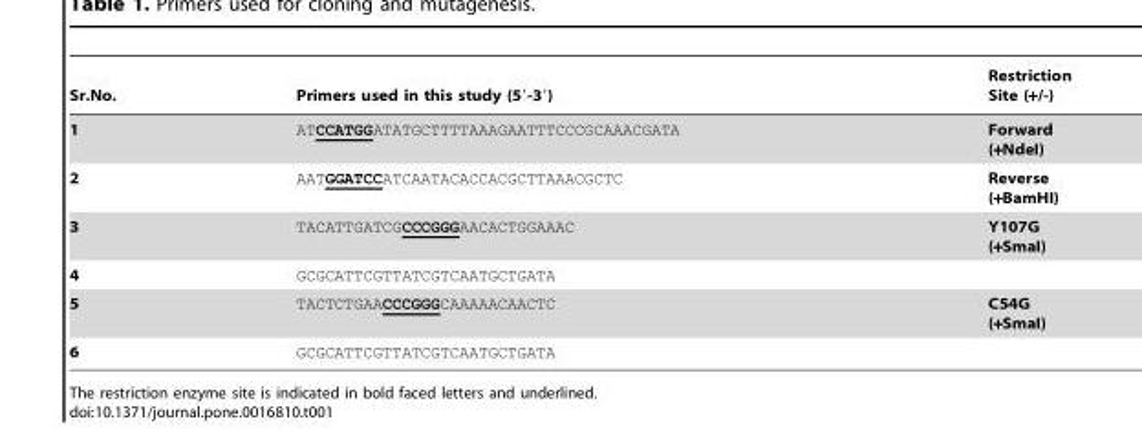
<table><thead><tr><td>Sr.No.</td><td>Primers used in this study (5′-3′)</td><td>Restriction Site (+/-)</td></tr></thead><tbody><tr><td>1</td><td>ATCCATGGATATGCTTTTAAAGAATTTCCCGCAAACGATA</td><td>Forward (+NdeI)</td></tr><tr><td>2</td><td>AATGGATCCATCAATACACCACGCTTAAACGCTC</td><td>Reverse (+BamHI)</td></tr><tr><td>3</td><td>TACATTGATCGCCCGGGAACACTGGAAAC</td><td>Y107G (+SmaI)</td></tr><tr><td>4</td><td>GCGCATTCGTTATCGTCAATGCTGATA</td><td></td></tr><tr><td>5</td><td>TACTCTGAACCCGGGCAAAAACAACTC</td><td>C54G (+SmaI)</td></tr><tr><td>6</td><td>GCGCATTCGTTATCGTCAATGCTGATA</td><td></td></tr></tbody></table>